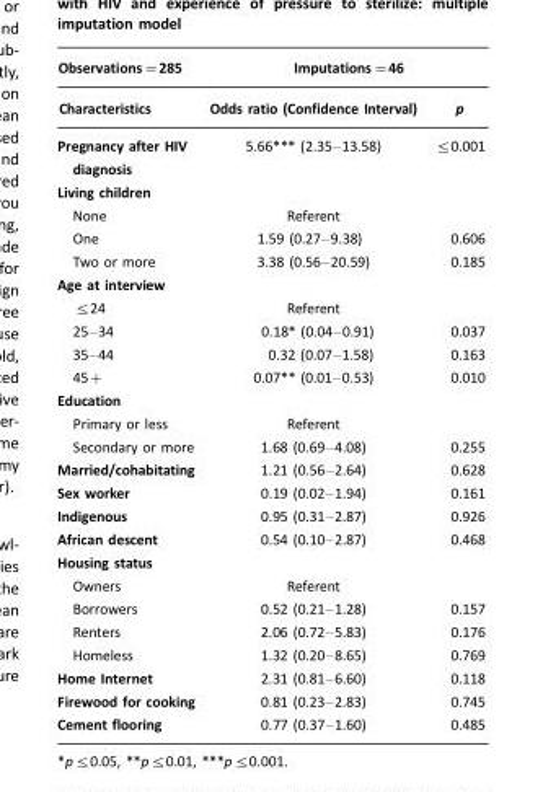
<table><thead><tr><td rowspan="2">Observations=285 Characteristics</td><td colspan="2">Imputations=46</td></tr><tr><td>Odds ratio (Confidence Interval)</td><td>p</td></tr></thead><tbody><tr><td>Pregnancy after HIV diagnosis</td><td>5.66*** (2.35–13.58)</td><td>≤0.001</td></tr><tr><td colspan="3">Living children</td></tr><tr><td>None</td><td>Referent</td><td></td></tr><tr><td>One</td><td>1.59 (0.27–9.38)</td><td>0.606</td></tr><tr><td>Two or more</td><td>3.38 (0.56–20.59)</td><td>0.185</td></tr><tr><td colspan="3">Age at interview</td></tr><tr><td>≤24</td><td>Referent</td><td></td></tr><tr><td>25–34</td><td>0.18* (0.04–0.91)</td><td>0.037</td></tr><tr><td>35–44</td><td>0.32 (0.07–1.58)</td><td>0.163</td></tr><tr><td>45+</td><td>0.07** (0.01–0.53)</td><td>0.010</td></tr><tr><td colspan="3">Education</td></tr><tr><td>Primary or less</td><td>Referent</td><td></td></tr><tr><td>Secondary or more</td><td>1.68 (0.69–4.08)</td><td>0.255</td></tr><tr><td>Married/cohabitating</td><td>1.21 (0.56–2.64)</td><td>0.628</td></tr><tr><td>Sex worker</td><td>0.19 (0.02–1.94)</td><td>0.161</td></tr><tr><td>Indigenous</td><td>0.95 (0.31–2.87)</td><td>0.926</td></tr><tr><td>African descent</td><td>0.54 (0.10–2.87)</td><td>0.468</td></tr><tr><td colspan="3">Housing status</td></tr><tr><td>Owners</td><td>Referent</td><td></td></tr><tr><td>Borrowers</td><td>0.52 (0.21–1.28)</td><td>0.157</td></tr><tr><td>Renters</td><td>2.06 (0.72–5.83)</td><td>0.176</td></tr><tr><td>Homeless</td><td>1.32 (0.20–8.65)</td><td>0.769</td></tr><tr><td>Home Internet</td><td>2.31 (0.81–6.60)</td><td>0.118</td></tr><tr><td>Firewood for cooking</td><td>0.81 (0.23–2.83)</td><td>0.745</td></tr><tr><td>Cement flooring</td><td>0.77 (0.37–1.60)</td><td>0.485</td></tr></tbody></table>